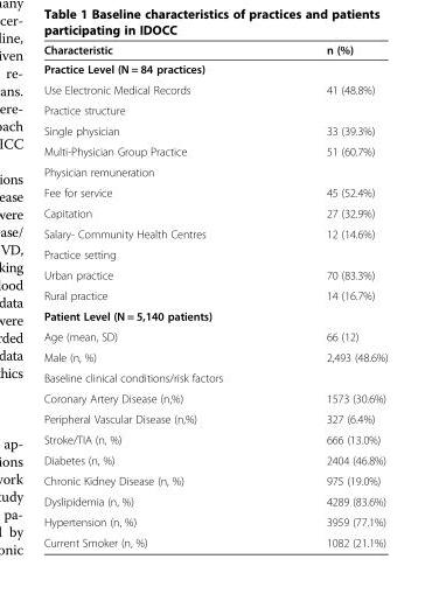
<table><thead><tr><td>Characteristic</td><td>n (%)</td></tr></thead><tbody><tr><td colspan="2">Practice Level (N = 84 practices)</td></tr><tr><td>Use Electronic Medical Records</td><td>41 (48.8%)</td></tr><tr><td colspan="2">Practice structure</td></tr><tr><td>Single physician</td><td>33 (39.3%)</td></tr><tr><td>Multi-Physician Group Practice</td><td>51 (60.7%)</td></tr><tr><td colspan="2">Physician remuneration</td></tr><tr><td>Fee for service</td><td>45 (52.4%)</td></tr><tr><td>Capitation</td><td>27 (32.9%)</td></tr><tr><td>Salary- Community Health Centres</td><td>12 (14.6%)</td></tr><tr><td colspan="2">Practice setting</td></tr><tr><td>Urban practice</td><td>70 (83.3%)</td></tr><tr><td>Rural practice</td><td>14 (16.7%)</td></tr><tr><td colspan="2">Patient Level (N = 5,140 patients)</td></tr><tr><td>Age (mean, SD)</td><td>66 (12)</td></tr><tr><td>Male (n, %)</td><td>2,493 (48.6%)</td></tr><tr><td colspan="2">Baseline clinical conditions/risk factors</td></tr><tr><td>Coronary Artery Disease (n,%)</td><td>1573 (30.6%)</td></tr><tr><td>Peripheral Vascular Disease (n,%)</td><td>327 (6.4%)</td></tr><tr><td>Stroke/TIA (n, %)</td><td>666 (13.0%)</td></tr><tr><td>Diabetes (n, %)</td><td>2404 (46.8%)</td></tr><tr><td>Chronic Kidney Disease (n, %)</td><td>975 (19.0%)</td></tr><tr><td>Dyslipidemia (n, %)</td><td>4289 (83.6%)</td></tr><tr><td>Hypertension (n, %)</td><td>3959 (77.1%)</td></tr><tr><td>Current Smoker (n, %)</td><td>1082 (21.1%)</td></tr></tbody></table>